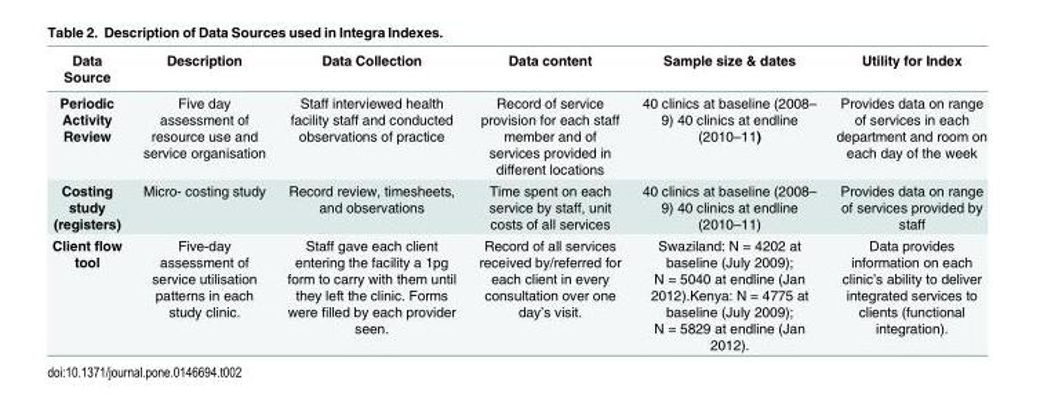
<table><thead><tr><td>Data Source</td><td>Description</td><td>Data Collection</td><td>Data content</td><td>Sample size &amp; dates</td><td>Utility for Index</td></tr></thead><tbody><tr><td>Periodic Activity Review</td><td>Five day assessment of resource use and service organisation</td><td>Staff interviewed health facility staff and conducted observations of practice</td><td>Record of service provision for each staff member and of services provided in different locations</td><td>40 clinics at baseline (2008– 9) 40 clinics at endline (2010–11)</td><td>Provides data on range of services in each department and room on each day of the week</td></tr><tr><td>Costing study (registers)</td><td>Micro- costing study</td><td>Record review, timesheets, and observations</td><td>Time spent on each service by staff, unit costs of all services</td><td>40 clinics at baseline (2008– 9) 40 clinics at endline (2010–11)</td><td>Provides data on range of services provided by staff</td></tr><tr><td>Client flow tool</td><td>Five-day assessment of service utilisation patterns in each study clinic.</td><td>Staff gave each client entering the facility a 1pg form to carry with them until they left the clinic. Forms were filled by each provider seen.</td><td>Record of all services received by/referred for each client in every consultation over one day’s visit.</td><td>Swaziland: N = 4202 at baseline (July 2009); N = 5040 at endline (Jan 2012).Kenya: N = 4775 at baseline (July 2009); N = 5829 at endline (Jan 2012).</td><td>Data provides information on each clinic’s ability to deliver integrated services to clients (functional integration).</td></tr></tbody></table>